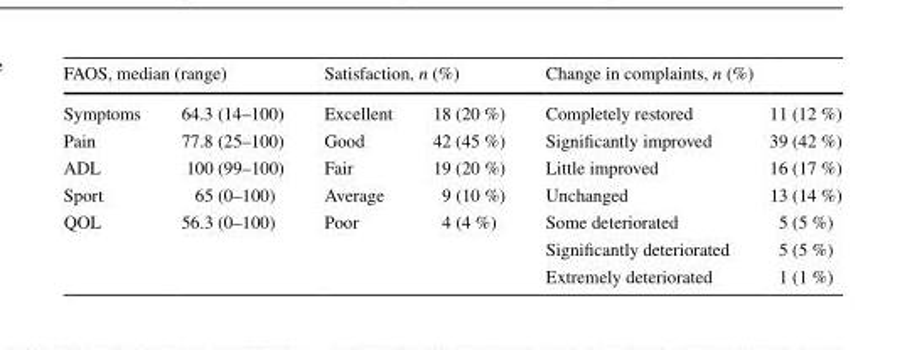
<table><thead><tr><td colspan="2">FAOS, median (range)</td><td colspan="2">Satisfaction, n (%)</td><td colspan="2">Change in complaints, n (%)</td></tr><tr><td>Symptoms</td><td>64.3 (14–100)</td><td>Excellent</td><td>18 (20 %)</td><td>Completely restored</td><td>11 (12 %)</td></tr></thead><tbody><tr><td>Pain</td><td>77.8 (25–100)</td><td>Good</td><td>42 (45 %)</td><td>Significantly improved</td><td>39 (42 %)</td></tr><tr><td>ADL</td><td>100 (99–100)</td><td>Fair</td><td>19 (20 %)</td><td>Little improved</td><td>16 (17 %)</td></tr><tr><td>Sport</td><td>65 (0–100)</td><td>Average</td><td>9 (10 %)</td><td>Unchanged</td><td>13 (14 %)</td></tr><tr><td>QOL</td><td>56.3 (0–100)</td><td>Poor</td><td>4 (4 %)</td><td>Some deteriorated</td><td>5 (5 %)</td></tr><tr><td rowspan="2" colspan="4"></td><td>Significantly deteriorated</td><td>5 (5 %)</td></tr><tr><td>Extremely deteriorated</td><td>1 (1 %)</td></tr></tbody></table>